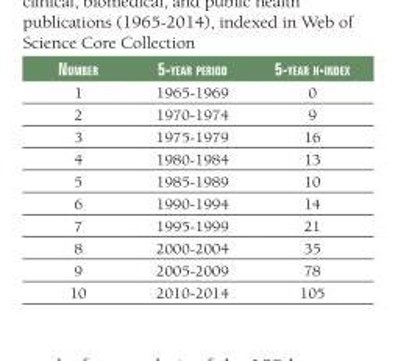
<table><thead><tr><td>numbeR</td><td>5-yeaR peRiod</td><td>5-yeaR h-index</td></tr></thead><tbody><tr><td>1</td><td>1965-1969</td><td>0</td></tr><tr><td>2</td><td>1970-1974</td><td>9</td></tr><tr><td>3</td><td>1975-1979</td><td>16</td></tr><tr><td>4</td><td>1980-1984</td><td>13</td></tr><tr><td>5</td><td>1985-1989</td><td>10</td></tr><tr><td>6</td><td>1990-1994</td><td>14</td></tr><tr><td>7</td><td>1995-1999</td><td>21</td></tr><tr><td>8</td><td>2000-2004</td><td>35</td></tr><tr><td>9</td><td>2005-2009</td><td>78</td></tr><tr><td>10</td><td>2010-2014</td><td>105</td></tr></tbody></table>